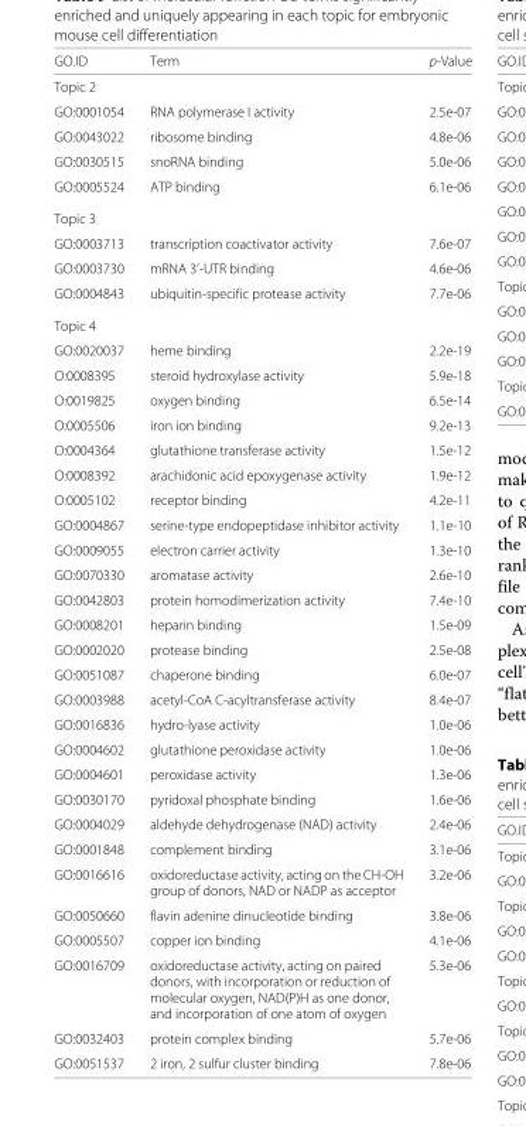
<table><thead><tr><td>GO.ID</td><td>Term</td><td>p-Value</td></tr></thead><tbody><tr><td colspan="3">Topic 2</td></tr><tr><td>GO:0001054</td><td>RNA polymerase I activity</td><td>2.5e-07</td></tr><tr><td>GO:0043022</td><td>ribosome binding</td><td>4.8e-06</td></tr><tr><td>GO:0030515</td><td>snoRNA binding</td><td>5.0e-06</td></tr><tr><td>GO:0005524</td><td>ATP binding</td><td>6.1e-06</td></tr><tr><td colspan="3">Topic 3</td></tr><tr><td>GO:0003713</td><td>transcription coactivator activity</td><td>7.6e-07</td></tr><tr><td>GO:0003730</td><td>mRNA 3’-UTR binding</td><td>4.6e-06</td></tr><tr><td>GO:0004843</td><td>ubiquitin-specific protease activity</td><td>7.7e-06</td></tr><tr><td colspan="3">Topic 4</td></tr><tr><td>GO:0020037</td><td>heme binding</td><td>2.2e-19</td></tr><tr><td>O:0008395</td><td>steroid hydroxylase activity</td><td>5.9e-18</td></tr><tr><td>O:0019825</td><td>oxygen binding</td><td>6.5e-14</td></tr><tr><td>O:0005506</td><td>iron ion binding</td><td>9.2e-13</td></tr><tr><td>O:0004364</td><td>glutathione transferase activity</td><td>1.5e-12</td></tr><tr><td>O:0008392</td><td>arachidonic acid epoxygenase activity</td><td>1.9e-12</td></tr><tr><td>O:0005102</td><td>receptor binding</td><td>4.2e-11</td></tr><tr><td>GO:0004867</td><td>serine-type endopeptidase inhibitor activity</td><td>1.1e-10</td></tr><tr><td>GO:0009055</td><td>electron carrier activity</td><td>1.3e-10</td></tr><tr><td>GO:0070330</td><td>aromatase activity</td><td>2.6e-10</td></tr><tr><td>GO:0042803</td><td>protein homodimerization activity</td><td>7.4e-10</td></tr><tr><td>GO:0008201</td><td>heparin binding</td><td>1.5e-09</td></tr><tr><td>GO:0002020</td><td>protease binding</td><td>2.5e-08</td></tr><tr><td>GO:0051087</td><td>chaperone binding</td><td>6.0e-07</td></tr><tr><td>GO:0003988</td><td>acetyl-CoA C-acyltransferase activity</td><td>8.4e-07</td></tr><tr><td>GO:0016836</td><td>hydro-lyase activity</td><td>1.0e-06</td></tr><tr><td>GO:0004602</td><td>glutathione peroxidase activity</td><td>1.0e-06</td></tr><tr><td>GO:0004601</td><td>peroxidase activity</td><td>1.3e-06</td></tr><tr><td>GO:0030170</td><td>pyridoxal phosphate binding</td><td>1.6e-06</td></tr><tr><td>GO:0004029</td><td>aldehyde dehydrogenase (NAD) activity</td><td>2.4e-06</td></tr><tr><td>GO:0001848</td><td>complement binding</td><td>3.1e-06</td></tr><tr><td>GO:0016616</td><td>oxidoreductase activity, acting on the CH-OH group of donors, NAD or NADP as acceptor</td><td>3.2e-06</td></tr><tr><td>GO:0050660</td><td>flavin adenine dinucleotide binding</td><td>3.8e-06</td></tr><tr><td>GO:0005507</td><td>copper ion binding</td><td>4.1e-06</td></tr><tr><td>GO:0016709</td><td>oxidoreductase activity, acting on paired donors, with incorporation or reduction of molecular oxygen, NAD(P)H as one donor, and incorporation of one atom of oxygen</td><td>5.3e-06</td></tr><tr><td>GO:0032403</td><td>protein complex binding</td><td>5.7e-06</td></tr><tr><td>GO:0051537</td><td>2 iron, 2 sulfur cluster binding</td><td>7.8e-06</td></tr></tbody></table>